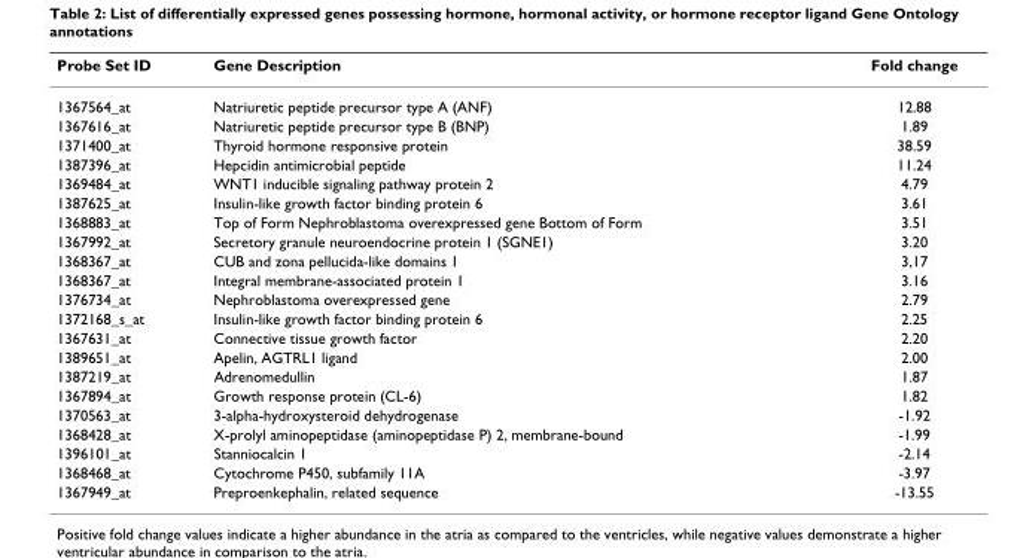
<table><thead><tr><td>Probe Set ID</td><td>Gene Description</td><td>Fold change</td></tr></thead><tbody><tr><td>1367564_at</td><td>Natriuretic peptide precursor type A (ANF)</td><td>12.88</td></tr><tr><td>1367616_at</td><td>Natriuretic peptide precursor type B (BNP)</td><td>1.89</td></tr><tr><td>1371400_at</td><td>Thyroid hormone responsive protein</td><td>38.59</td></tr><tr><td>1387396_at</td><td>Hepcidin antimicrobial peptide</td><td>11.24</td></tr><tr><td>1369484_at</td><td>WNT1 inducible signaling pathway protein 2</td><td>4.79</td></tr><tr><td>1387625_at</td><td>Insulin-like growth factor binding protein 6</td><td>3.61</td></tr><tr><td>1368883_at</td><td>Top of Form Nephroblastoma overexpressed gene Bottom of Form</td><td>3.51</td></tr><tr><td>1367992_at</td><td>Secretory granule neuroendocrine protein 1 (SGNE1)</td><td>3.20</td></tr><tr><td>1368367_at</td><td>CUB and zona pellucida-like domains 1</td><td>3,17</td></tr><tr><td>1368367_at</td><td>Integral membrane-associated protein 1</td><td>3.16</td></tr><tr><td>1376734_at</td><td>Nephroblastoma overexpressed gene</td><td>2.79</td></tr><tr><td>1372168_s_at</td><td>Insulin-like growth factor binding protein 6</td><td>2.25</td></tr><tr><td>1367631_at</td><td>Connective tissue growth factor</td><td>2.20</td></tr><tr><td>1389651_at</td><td>Apelin, AGTRL1 ligand</td><td>2.00</td></tr><tr><td>1387219_at</td><td>Adrenomedullin</td><td>1.87</td></tr><tr><td>1367894_at</td><td>Growth response protein (CL-6)</td><td>1.82</td></tr><tr><td>1370563_at</td><td>3-alpha-hydroxysteroid dehydrogenase</td><td>-1.92</td></tr><tr><td>1368428_at</td><td>X-prolyl aminopeptidase (aminopeptidase P) 2, membrane-bound</td><td>-1.99</td></tr><tr><td>1396101_at</td><td>Stanniocalcin 1</td><td>-2.14</td></tr><tr><td>1368468_at</td><td>Cytochrome P450, subfamily 11A</td><td>-3.97</td></tr><tr><td>1367949_at</td><td>Preproenkephalin, related sequence</td><td>-13.55</td></tr></tbody></table>